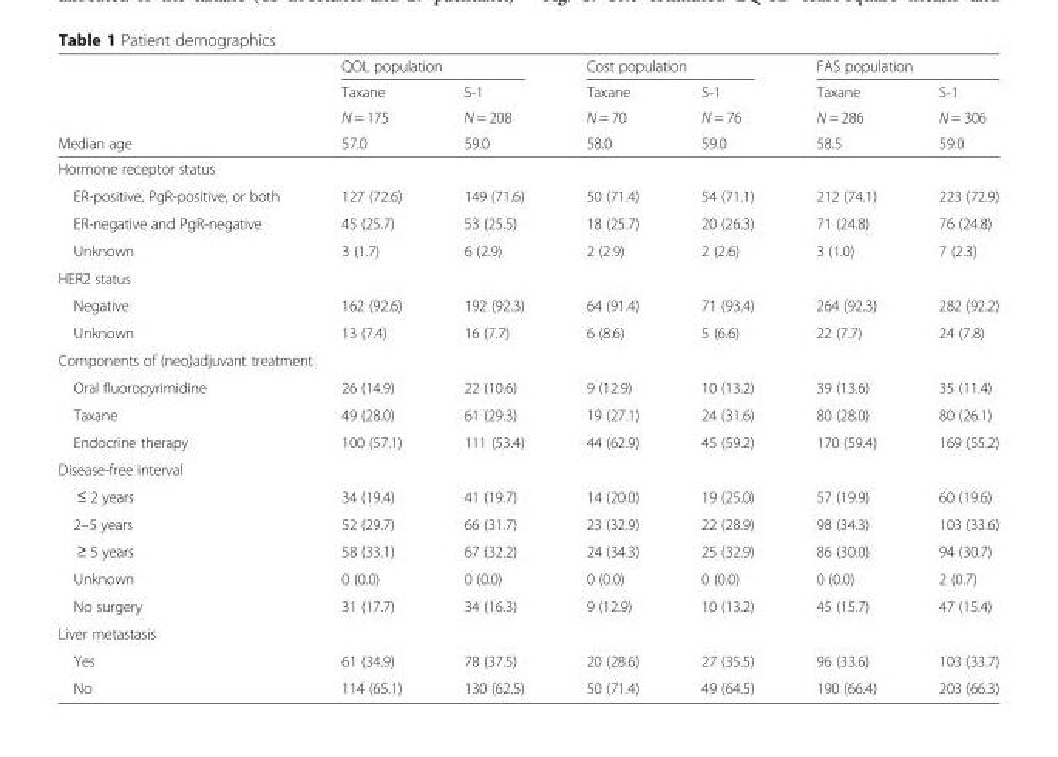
<table><thead><tr><td rowspan="4">Median age</td><td colspan="2">QOL population</td><td colspan="2">Cost population</td><td colspan="2">FAS population</td></tr><tr><td rowspan="3">Taxane N = 175 57.0</td><td rowspan="3">S-1 N = 208 59.0</td><td rowspan="3">Taxane N = 70 58.0</td><td rowspan="3">S-1 N = 76 59.0</td><td rowspan="3">Taxane N = 286 58.5</td><td rowspan="3">S-1 N = 306 59.0</td></tr><tr></tr><tr></tr></thead><tbody><tr><td colspan="7">Hormone receptor status</td></tr><tr><td>ER-positive, PgR-positive, or both</td><td>127 (72.6)</td><td>149 (71.6)</td><td>50 (71.4)</td><td>54 (71.1)</td><td>212 (74.1)</td><td>223 (72.9)</td></tr><tr><td>ER-negative and PgR-negative</td><td>45 (25.7)</td><td>53 (25.5)</td><td>18 (25.7)</td><td>20 (26.3)</td><td>71 (24.8)</td><td>76 (24.8)</td></tr><tr><td>Unknown</td><td>3 (1.7)</td><td>6 (2.9)</td><td>2 (2.9)</td><td>2 (2.6)</td><td>3 (1.0)</td><td>7 (2.3)</td></tr><tr><td colspan="7">HER2 status</td></tr><tr><td>Negative</td><td>162 (92.6)</td><td>192 (92.3)</td><td>64 (91.4)</td><td>71 (93.4)</td><td>264 (92.3)</td><td>282 (92.2)</td></tr><tr><td>Unknown</td><td>13 (7.4)</td><td>16 (7.7)</td><td>6 (8.6)</td><td>5 (6.6)</td><td>22 (7.7)</td><td>24 (7.8)</td></tr><tr><td colspan="7">Components of (neo)adjuvant treatment</td></tr><tr><td>Oral fluoropyrimidine</td><td>26 (14.9)</td><td>22 (10.6)</td><td>9 (12.9)</td><td>10 (13.2)</td><td>39 (13.6)</td><td>35 (11.4)</td></tr><tr><td>Taxane</td><td>49 (28.0)</td><td>61 (29.3)</td><td>19 (27.1)</td><td>24 (31.6)</td><td>80 (28.0)</td><td>80 (26.1)</td></tr><tr><td>Endocrine therapy</td><td>100 (57.1)</td><td>111 (53.4)</td><td>44 (62.9)</td><td>45 (59.2)</td><td>170 (59.4)</td><td>169 (55.2)</td></tr><tr><td colspan="7">Disease-free interval</td></tr><tr><td>≤ 2 years</td><td>34 (19.4)</td><td>41 (19.7)</td><td>14 (20.0)</td><td>19 (25.0)</td><td>57 (19.9)</td><td>60 (19.6)</td></tr><tr><td>2–5 years</td><td>52 (29.7)</td><td>66 (31.7)</td><td>23 (32.9)</td><td>22 (28.9)</td><td>98 (34.3)</td><td>103 (33.6)</td></tr><tr><td>≥ 5 years</td><td>58 (33.1)</td><td>67 (32.2)</td><td>24 (34.3)</td><td>25 (32.9)</td><td>86 (30.0)</td><td>94 (30.7)</td></tr><tr><td>Unknown</td><td>0 (0.0)</td><td>0 (0.0)</td><td>0 (0.0)</td><td>0 (0.0)</td><td>0 (0.0)</td><td>2 (0.7)</td></tr><tr><td>No surgery</td><td>31 (17.7)</td><td>34 (16.3)</td><td>9 (12.9)</td><td>10 (13.2)</td><td>45 (15.7)</td><td>47 (15.4)</td></tr><tr><td colspan="7">Liver metastasis</td></tr><tr><td>Yes</td><td>61 (34.9)</td><td>78 (37.5)</td><td>20 (28.6)</td><td>27 (35.5)</td><td>96 (33.6)</td><td>103 (33.7)</td></tr><tr><td>No</td><td>114 (65.1)</td><td>130 (62.5)</td><td>50 (71.4)</td><td>49 (64.5)</td><td>190 (66.4)</td><td>203 (66.3)</td></tr></tbody></table>